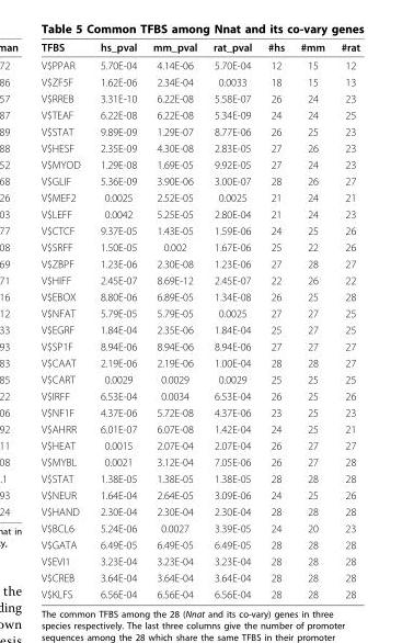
<table><thead><tr><td>TFBS</td><td>hs_pval</td><td>mm_pval</td><td>rat_pval</td><td>#hs</td><td>#mm</td><td>#rat</td></tr></thead><tbody><tr><td>V$PPAR</td><td>5.70E-04</td><td>4.14E-06</td><td>5.70E-04</td><td>12</td><td>15</td><td>12</td></tr><tr><td>V$ZF5F</td><td>1.62E-06</td><td>2.34E-04</td><td>0.0033</td><td>18</td><td>15</td><td>13</td></tr><tr><td>V$RREB</td><td>3.31E-10</td><td>6.22E-08</td><td>5.58E-07</td><td>26</td><td>24</td><td>23</td></tr><tr><td>V$TEAF</td><td>6.22E-08</td><td>6.22E-08</td><td>5.34E-09</td><td>24</td><td>24</td><td>25</td></tr><tr><td>V$STAT</td><td>9.89E-09</td><td>1.29E-07</td><td>8.77E-06</td><td>26</td><td>25</td><td>23</td></tr><tr><td>V$HESF</td><td>2.35E-09</td><td>4.30E-08</td><td>2.83E-05</td><td>27</td><td>26</td><td>23</td></tr><tr><td>V$MYOD</td><td>1.29E-08</td><td>1.69E-05</td><td>9.92E-05</td><td>27</td><td>24</td><td>23</td></tr><tr><td>V$GLIF</td><td>5.36E-09</td><td>3.90E-06</td><td>3.00E-07</td><td>28</td><td>26</td><td>27</td></tr><tr><td>V$MEF2</td><td>0.0025</td><td>2.52E-05</td><td>0.0025</td><td>21</td><td>24</td><td>21</td></tr><tr><td>V$LEFF</td><td>0.0042</td><td>5.25E-05</td><td>2.80E-04</td><td>21</td><td>24</td><td>23</td></tr><tr><td>V$CTCF</td><td>9.37E-05</td><td>1.43E-05</td><td>1.59E-06</td><td>24</td><td>25</td><td>26</td></tr><tr><td>V$SRFF</td><td>1.50E-05</td><td>0.002</td><td>1.67E-06</td><td>25</td><td>22</td><td>26</td></tr><tr><td>V$ZBPF</td><td>1.23E-06</td><td>2.30E-08</td><td>1.23E-06</td><td>27</td><td>28</td><td>27</td></tr><tr><td>V$HIFF</td><td>2.45E-07</td><td>8.69E-12</td><td>2.45E-07</td><td>22</td><td>26</td><td>22</td></tr><tr><td>V$EBOX</td><td>8.80E-06</td><td>6.89E-05</td><td>1.34E-08</td><td>26</td><td>25</td><td>28</td></tr><tr><td>V$NFAT</td><td>5.79E-05</td><td>5.79E-05</td><td>0.0025</td><td>27</td><td>27</td><td>25</td></tr><tr><td>V$EGRF</td><td>1.84E-04</td><td>2.35E-06</td><td>1.84E-04</td><td>25</td><td>27</td><td>25</td></tr><tr><td>V$SP1F</td><td>8.94E-06</td><td>8.94E-06</td><td>8.94E-06</td><td>27</td><td>27</td><td>27</td></tr><tr><td>V$CAAT</td><td>2.19E-06</td><td>2.19E-06</td><td>1.00E-04</td><td>28</td><td>28</td><td>27</td></tr><tr><td>V$CART</td><td>0.0029</td><td>0.0029</td><td>0.0029</td><td>25</td><td>25</td><td>25</td></tr><tr><td>V$IRFF</td><td>6.53E-04</td><td>0.0034</td><td>6.53E-04</td><td>26</td><td>25</td><td>26</td></tr><tr><td>V$NF1F</td><td>4.37E-06</td><td>5.72E-08</td><td>4.37E-06</td><td>23</td><td>25</td><td>23</td></tr><tr><td>V$AHRR</td><td>6.01E-07</td><td>6.07E-08</td><td>1.42E-04</td><td>24</td><td>25</td><td>21</td></tr><tr><td>V$HEAT</td><td>0.0015</td><td>2.07E-04</td><td>2.07E-04</td><td>26</td><td>27</td><td>27</td></tr><tr><td>V$MYBL</td><td>0.0021</td><td>3.12E-04</td><td>7.05E-06</td><td>26</td><td>27</td><td>28</td></tr><tr><td>V$STAT</td><td>1.38E-05</td><td>1.38E-05</td><td>1.38E-05</td><td>28</td><td>28</td><td>28</td></tr><tr><td>V$NEUR</td><td>1.64E-04</td><td>2.64E-05</td><td>3.09E-06</td><td>24</td><td>25</td><td>26</td></tr><tr><td>V$HAND</td><td>2.30E-04</td><td>2.30E-04</td><td>2.30E-04</td><td>28</td><td>28</td><td>28</td></tr><tr><td>V$BCL6</td><td>5.24E-06</td><td>0.0027</td><td>3.39E-05</td><td>24</td><td>20</td><td>23</td></tr><tr><td>V$GATA</td><td>6.49E-05</td><td>6.49E-05</td><td>6.49E-05</td><td>28</td><td>28</td><td>28</td></tr><tr><td>V$EVI1</td><td>3.23E-04</td><td>3.23E-04</td><td>3.23E-04</td><td>28</td><td>28</td><td>28</td></tr><tr><td>V$CREB</td><td>3.64E-04</td><td>3.64E-04</td><td>3.64E-04</td><td>28</td><td>28</td><td>28</td></tr><tr><td>V$KLFS</td><td>6.56E-04</td><td>6.56E-04</td><td>6.56E-04</td><td>28</td><td>28</td><td>28</td></tr></tbody></table>